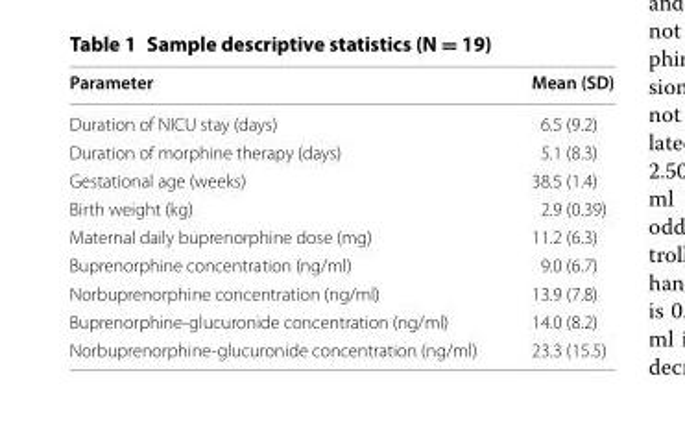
<table><thead><tr><td>Parameter</td><td>Mean (SD)</td></tr></thead><tbody><tr><td>Duration of NICU stay (days)</td><td>6.5 (9.2)</td></tr><tr><td>Duration of morphine therapy (days)</td><td>5.1 (8.3)</td></tr><tr><td>Gestational age (weeks)</td><td>38.5 (1.4)</td></tr><tr><td>Birth weight (kg)</td><td>2.9 (0.39)</td></tr><tr><td>Maternal daily buprenorphine dose (mg)</td><td>11.2 (6.3)</td></tr><tr><td>Buprenorphine concentration (ng/ml)</td><td>9.0 (6.7)</td></tr><tr><td>Norbuprenorphine concentration (ng/ml)</td><td>13.9 (7.8)</td></tr><tr><td>Buprenorphine-glucuronide concentration (ng/ml)</td><td>14.0 (8.2)</td></tr><tr><td>Norbuprenorphine-glucuronide concentration (ng/ml)</td><td>23.3 (15.5)</td></tr></tbody></table>